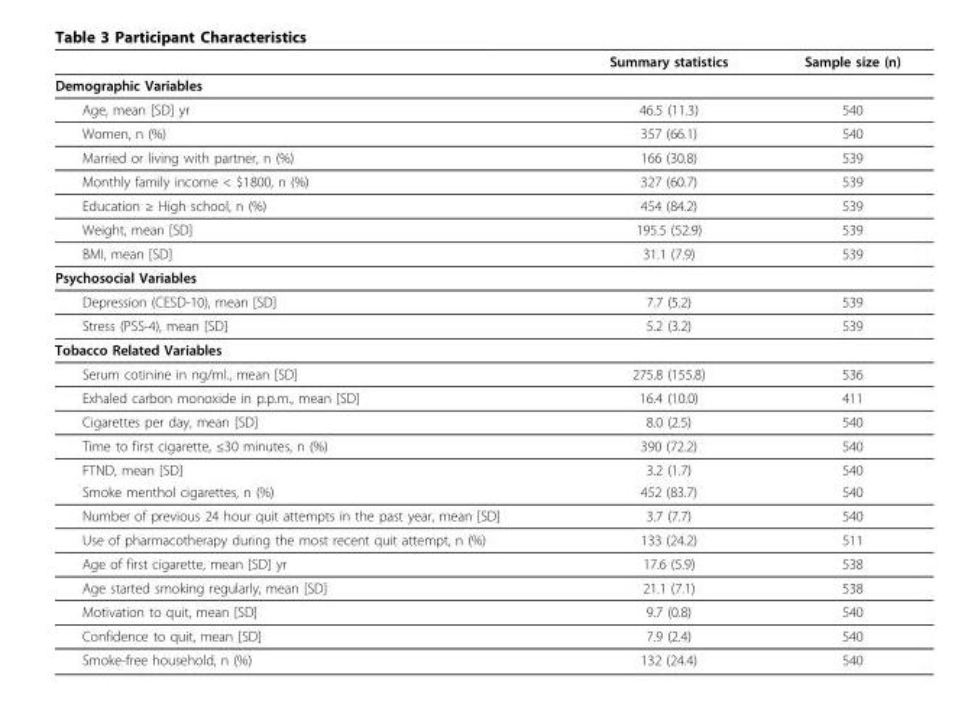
<table><thead><tr><td></td><td>Summary statistics</td><td>Sample size (n)</td></tr></thead><tbody><tr><td colspan="3">Demographic Variables</td></tr><tr><td>Age, mean [SD] yr</td><td>46.5 (11.3)</td><td>540</td></tr><tr><td>Women, n (%)</td><td>357 (66.1)</td><td>540</td></tr><tr><td>Married or living with partner, n (%)</td><td>166 (30.8)</td><td>539</td></tr><tr><td>Monthly family income &lt; $1800, n (%)</td><td>327 (60.7)</td><td>539</td></tr><tr><td>Education ≥ High school, n (%)</td><td>454 (84.2)</td><td>539</td></tr><tr><td>Weight, mean [SD]</td><td>195.5 (52.9)</td><td>539</td></tr><tr><td>BMI, mean [SD]</td><td>31.1 (7.9)</td><td>539</td></tr><tr><td colspan="3">Psychosocial Variables</td></tr><tr><td>Depression (CESD-10), mean [SD]</td><td>7.7 (5.2)</td><td>539</td></tr><tr><td>Stress (PSS-4), mean [SD]</td><td>5.2 (3.2)</td><td>539</td></tr><tr><td colspan="3">Tobacco Related Variables</td></tr><tr><td>Serum cotinine in ng/ml., mean [SD]</td><td>275.8 (155.8)</td><td>536</td></tr><tr><td>Exhaled carbon monoxide in p.p.m., mean [SD]</td><td>16.4 (10.0)</td><td>411</td></tr><tr><td>Cigarettes per day, mean [SD]</td><td>8.0 (2.5)</td><td>540</td></tr><tr><td>Time to first cigarette, ≤30 minutes, n (%)</td><td>390 (72.2)</td><td>540</td></tr><tr><td>FTND, mean [SD]</td><td>3.2 (1.7)</td><td>540</td></tr><tr><td>Smoke menthol cigarettes, n (%)</td><td>452 (83.7)</td><td>540</td></tr><tr><td>Number of previous 24 hour quit attempts in the past year, mean [SD]</td><td>3.7 (7.7)</td><td>540</td></tr><tr><td>Use of pharmacotherapy during the most recent quit attempt, n (%)</td><td>133 (24.2)</td><td>511</td></tr><tr><td>Age of first cigarette, mean [SD] yr</td><td>17.6 (5.9)</td><td>538</td></tr><tr><td>Age started smoking regularly, mean [SD]</td><td>21.1 (7.1)</td><td>538</td></tr><tr><td>Motivation to quit, mean [SD]</td><td>9.7 (0.8)</td><td>540</td></tr><tr><td>Confidence to quit, mean [SD]</td><td>7.9 (2.4)</td><td>540</td></tr><tr><td>Smoke-free household, n (%)</td><td>132 (24.4)</td><td>540</td></tr></tbody></table>